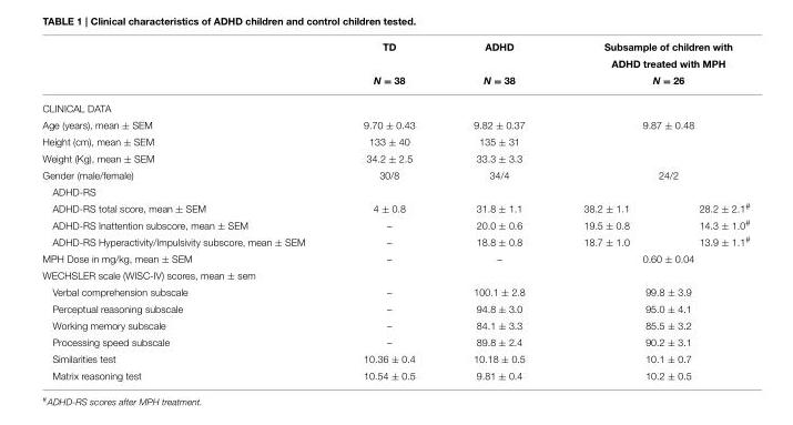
<table><thead><tr><td rowspan="2"></td><td rowspan="2">TD N = 38</td><td rowspan="2">ADHD N = 38</td><td rowspan="2" colspan="2">Subsample of children with ADHD treated with MPH N = 26</td></tr><tr></tr></thead><tbody><tr><td colspan="5">CLINICAL DATA</td></tr><tr><td>Age (years), mean ± SEM</td><td>9.70 ± 0.43</td><td>9.82 ± 0.37</td><td colspan="2">9.87 ± 0.48</td></tr><tr><td>Height (cm), mean ± SEM</td><td>133 ± 40</td><td>135 ± 31</td><td colspan="2"></td></tr><tr><td>Weight (Kg), mean ± SEM</td><td>34.2 ± 2.5</td><td>33.3 ± 3.3</td><td colspan="2"></td></tr><tr><td>Gender (male/female)</td><td>30/8</td><td>34/4</td><td colspan="2">24/2</td></tr><tr><td colspan="5">ADHD-RS</td></tr><tr><td>ADHD-RS total score, mean ± SEM</td><td>4 ± 0.8</td><td>31.8 ± 1.1</td><td>38.2 ± 1.1</td><td>28.2 ± 2.1<sup>#</sup></td></tr><tr><td>ADHD-RS Inattention subscore, mean ± SEM</td><td>–</td><td>20.0 ± 0.6</td><td>19.5 ± 0.8</td><td>14.3 ± 1.0<sup>#</sup></td></tr><tr><td>ADHD-RS Hyperactivity/Impulsivity subscore, mean ± SEM</td><td>–</td><td>18.8 ± 0.8</td><td>18.7 ± 1.0</td><td>13.9 ± 1.1<sup>#</sup></td></tr><tr><td>MPH Dose in mg/kg, mean ± SEM</td><td>–</td><td>–</td><td colspan="2">0.60 ± 0.04</td></tr><tr><td colspan="5">WECHSLER scale (WISC-IV) scores, mean ± sem</td></tr><tr><td>Verbal comprehension subscale</td><td>–</td><td>100.1 ± 2.8</td><td colspan="2">99.8 ± 3.9</td></tr><tr><td>Perceptual reasoning subscale</td><td>–</td><td>94.8 ± 3.0</td><td colspan="2">95.0 ± 4.1</td></tr><tr><td>Working memory subscale</td><td>–</td><td>84.1 ± 3.3</td><td colspan="2">85.5 ± 3.2</td></tr><tr><td>Processing speed subscale</td><td>–</td><td>89.8 ± 2.4</td><td colspan="2">90.2 ± 3.1</td></tr><tr><td>Similarities test</td><td>10.36 ± 0.4</td><td>10.18 ± 0.5</td><td colspan="2">10.1 ± 0.7</td></tr><tr><td>Matrix reasoning test</td><td>10.54 ± 0.5</td><td>9.81 ± 0.4</td><td colspan="2">10.2 ± 0.5</td></tr></tbody></table>